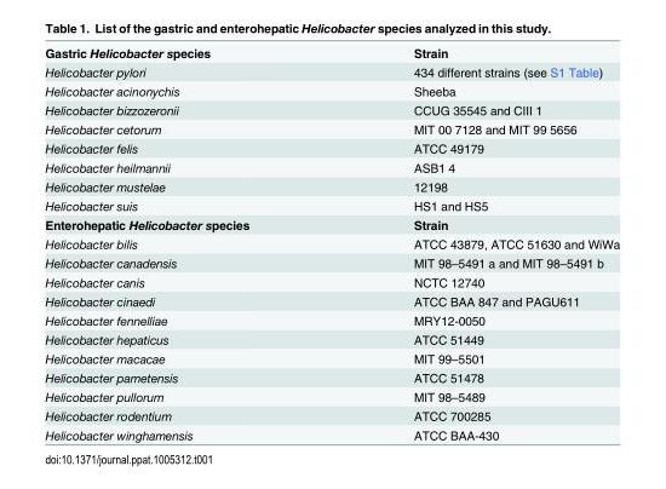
<table><tbody><tr><td>Gastric Helicobacter species</td><td>Strain</td></tr><tr><td>Helicobacter pylori</td><td>434 different strains (see S1 Table)</td></tr><tr><td>Helicobacter acinonychis</td><td>Sheeba</td></tr><tr><td>Helicobacter bizzozeronii</td><td>CCUG 35545 and CIII 1</td></tr><tr><td>Helicobacter cetorum</td><td>MIT 00 7128 and MIT 99 5656</td></tr><tr><td>Helicobacter felis</td><td>ATCC 49179</td></tr><tr><td>Helicobacter heilmannii</td><td>ASB1 4</td></tr><tr><td>Helicobacter mustelae</td><td>12198</td></tr><tr><td>Helicobacter suis</td><td>HS1 and HS5</td></tr><tr><td>Enterohepatic Helicobacter species</td><td>Strain</td></tr><tr><td>Helicobacter bilis</td><td>ATCC 43879, ATCC 51630 and WiWa</td></tr><tr><td>Helicobacter canadensis</td><td>MIT 98–5491 a and MIT 98–5491 b</td></tr><tr><td>Helicobacter canis</td><td>NCTC 12740</td></tr><tr><td>Helicobacter cinaedi</td><td>ATCC BAA 847 and PAGU611</td></tr><tr><td>Helicobacter fennelliae</td><td>MRY12-0050</td></tr><tr><td>Helicobacter hepaticus</td><td>ATCC 51449</td></tr><tr><td>Helicobacter macacae</td><td>MIT 99–5501</td></tr><tr><td>Helicobacter pametensis</td><td>ATCC 51478</td></tr><tr><td>Helicobacter pullorum</td><td>MIT 98–5489</td></tr><tr><td>Helicobacter rodentium</td><td>ATCC 700285</td></tr><tr><td>Helicobacter winghamensis</td><td>ATCC BAA-430</td></tr></tbody></table>